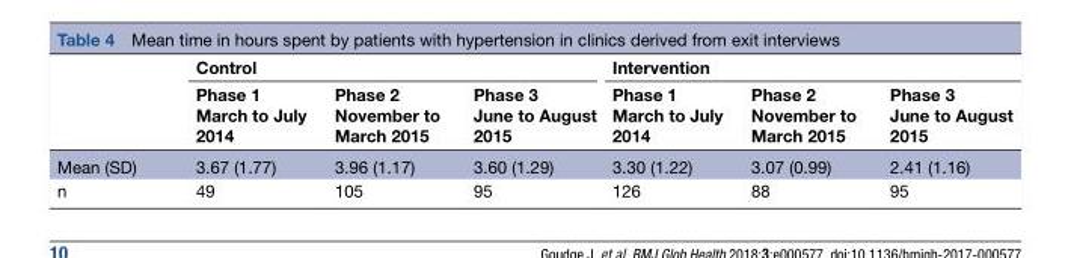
<table><thead><tr><td rowspan="2"></td><td colspan="3">Control</td><td colspan="3">Intervention</td></tr><tr><td>Phase 1 March to July 2014</td><td>Phase 2 November to March 2015</td><td>Phase 3 June to August 2015</td><td>Phase 1 March to July 2014</td><td>Phase 2 November to March 2015</td><td>Phase 3 June to August 2015</td></tr></thead><tbody><tr><td>Mean (SD)</td><td>3.67 (1.77)</td><td>3.96 (1.17)</td><td>3.60 (1.29)</td><td>3.30 (1.22)</td><td>3.07 (0.99)</td><td>2.41 (1.16)</td></tr><tr><td>n</td><td>49</td><td>105</td><td>95</td><td>126</td><td>88</td><td>95</td></tr></tbody></table>